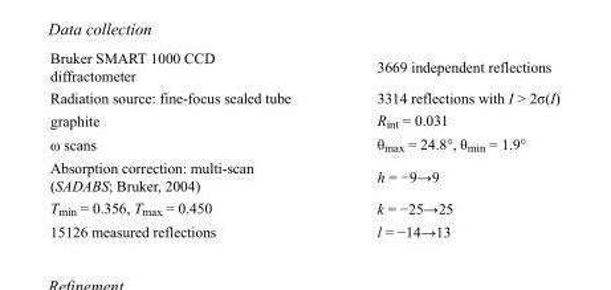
<table><tbody><tr><td>Bruker SMART 1000 CCD diffractometer</td><td>3669 independent reflections</td></tr><tr><td>Radiation source: fine-focus sealed tube</td><td>3314 reflections with I &gt; 2σ(I)</td></tr><tr><td>graphite</td><td>R<sub>int</sub> = 0.031</td></tr><tr><td>ω scans</td><td>θ<sub>max</sub> = 24.8°, θ<sub>min</sub> = 1.9°</td></tr><tr><td>Absorption correction: multi-scan (SADABS; Bruker, 2004)</td><td>h = −9→9</td></tr><tr><td>T<sub>min</sub> = 0.356, T<sub>max</sub> = 0.450</td><td>k = −25→25</td></tr><tr><td>15126 measured reflections</td><td>l = −14→13</td></tr></tbody></table>